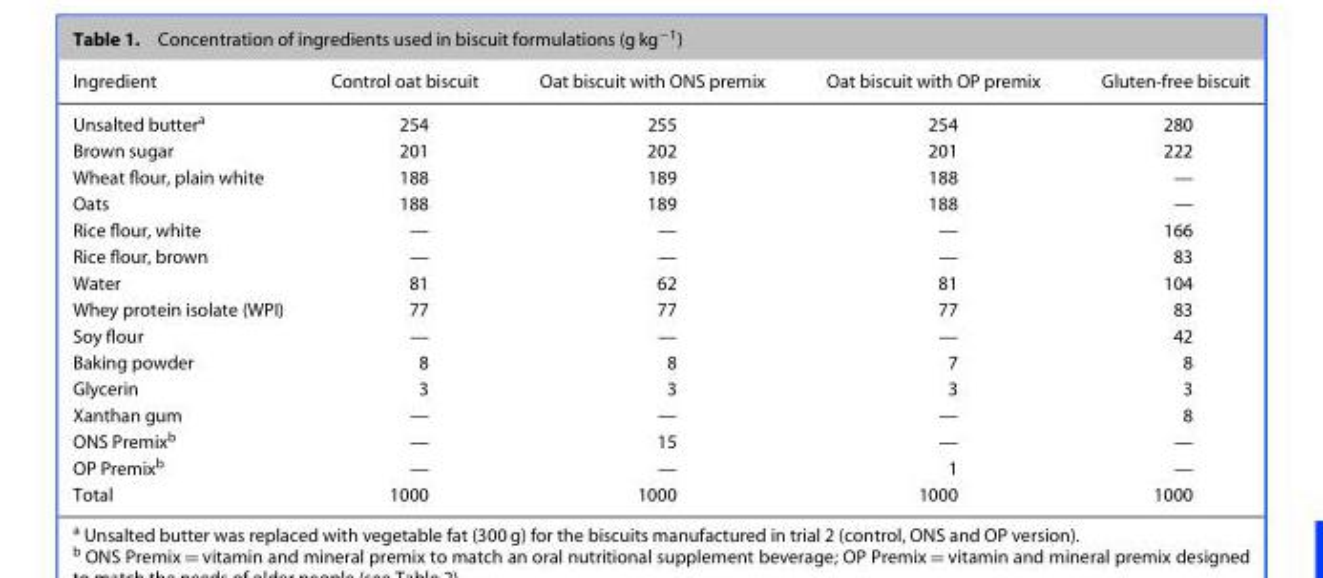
<table><thead><tr><td>Ingredient</td><td>Control oat biscuit</td><td>Oat biscuit with ONS premix</td><td>Oat biscuit with OP premix</td><td>Gluten-free biscuit</td></tr></thead><tbody><tr><td>Unsalted butter<sup>a</sup></td><td>254</td><td>255</td><td>254</td><td>280</td></tr><tr><td>Brown sugar</td><td>201</td><td>202</td><td>201</td><td>222</td></tr><tr><td>Wheat flour, plain white</td><td>188</td><td>189</td><td>188</td><td>—</td></tr><tr><td>Oats</td><td>188</td><td>189</td><td>188</td><td>—</td></tr><tr><td>Rice flour, white</td><td>—</td><td>—</td><td>—</td><td>166</td></tr><tr><td>Rice flour, brown</td><td>—</td><td>—</td><td>—</td><td>83</td></tr><tr><td>Water</td><td>81</td><td>62</td><td>81</td><td>104</td></tr><tr><td>Whey protein isolate (WPI)</td><td>77</td><td>77</td><td>77</td><td>83</td></tr><tr><td>Soy flour</td><td>—</td><td>—</td><td>—</td><td>42</td></tr><tr><td>Baking powder</td><td>8</td><td>8</td><td>7</td><td>8</td></tr><tr><td>Glycerin</td><td>3</td><td>3</td><td>3</td><td>3</td></tr><tr><td>Xanthan gum</td><td>—</td><td>—</td><td>—</td><td>8</td></tr><tr><td>ONS Premix<sup>b</sup></td><td>—</td><td>15</td><td>—</td><td>—</td></tr><tr><td>OP Premix<sup>b</sup></td><td>—</td><td>—</td><td>1</td><td>—</td></tr><tr><td>Total</td><td>1000</td><td>1000</td><td>1000</td><td>1000</td></tr></tbody></table>